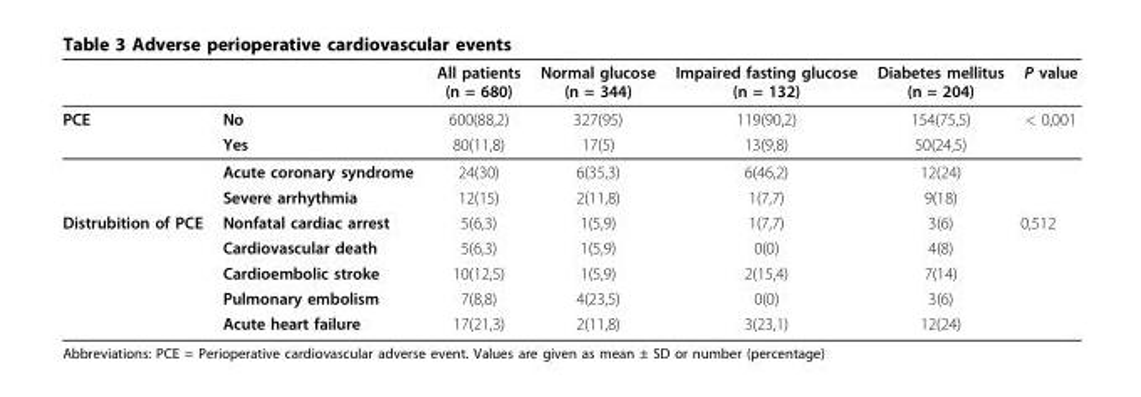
<table><thead><tr><td></td><td></td><td>All patients (n = 680)</td><td>Normal glucose (n = 344)</td><td>Impaired fasting glucose (n = 132)</td><td>Diabetes mellitus (n = 204)</td><td>P value</td></tr></thead><tbody><tr><td rowspan="4">PCE</td><td>No</td><td>600(88,2)</td><td>327(95)</td><td>119(90,2)</td><td>154(75,5)</td><td>&lt; 0,001</td></tr><tr><td>Yes</td><td>80(11,8)</td><td>17(5)</td><td>13(9,8)</td><td>50(24,5)</td><td></td></tr><tr><td>Acute coronary syndrome</td><td>24(30)</td><td>6(35,3)</td><td>6(46,2)</td><td>12(24)</td><td></td></tr><tr><td>Severe arrhythmia</td><td>12(15)</td><td>2(11,8)</td><td>1(7,7)</td><td>9(18)</td><td></td></tr><tr><td rowspan="5">Distrubition of PCE</td><td>Nonfatal cardiac arrest</td><td>5(6,3)</td><td>1(5,9)</td><td>1(7,7)</td><td>3(6)</td><td>0,512</td></tr><tr><td>Cardiovascular death</td><td>5(6,3)</td><td>1(5,9)</td><td>0(0)</td><td>4(8)</td><td></td></tr><tr><td>Cardioembolic stroke</td><td>10(12,5)</td><td>1(5,9)</td><td>2(15,4)</td><td>7(14)</td><td></td></tr><tr><td>Pulmonary embolism</td><td>7(8,8)</td><td>4(23,5)</td><td>0(0)</td><td>3(6)</td><td></td></tr><tr><td>Acute heart failure</td><td>17(21,3)</td><td>2(11,8)</td><td>3(23,1)</td><td>12(24)</td><td></td></tr></tbody></table>